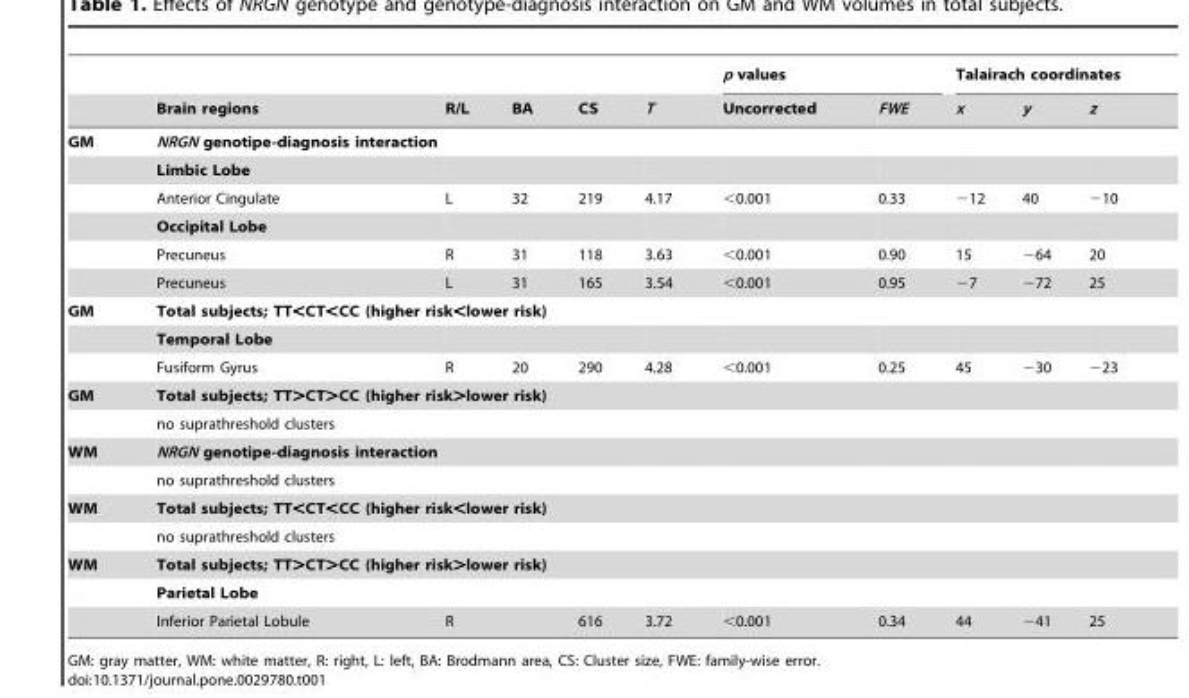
<table><thead><tr><td rowspan="2"></td><td rowspan="2">Brain regions</td><td rowspan="2">R/L</td><td rowspan="2">BA</td><td rowspan="2">CS</td><td rowspan="2">T</td><td colspan="2">p values</td><td colspan="3">Talairach coordinates</td></tr><tr><td>Uncorrected</td><td>FWE</td><td>x</td><td>y</td><td>z</td></tr></thead><tbody><tr><td rowspan="6">GM</td><td colspan="10">NRGN genotipe-diagnosis interaction</td></tr><tr><td>Limbic Lobe</td><td></td><td></td><td></td><td></td><td></td><td></td><td></td><td></td><td></td></tr><tr><td>Anterior Cingulate</td><td>L</td><td>32</td><td>219</td><td>4.17</td><td>&lt;0.001</td><td>0.33</td><td>−12</td><td>40</td><td>−10</td></tr><tr><td>Occipital Lobe</td><td></td><td></td><td></td><td></td><td></td><td></td><td></td><td></td><td></td></tr><tr><td>Precuneus</td><td>R</td><td>31</td><td>118</td><td>3.63</td><td>&lt;0.001</td><td>0.90</td><td>15</td><td>−64</td><td>20</td></tr><tr><td>Precuneus</td><td>L</td><td>31</td><td>165</td><td>3.54</td><td>&lt;0.001</td><td>0.95</td><td>−7</td><td>−72</td><td>25</td></tr><tr><td rowspan="3">GM</td><td colspan="10">Total subjects; TT&lt;CT&lt;CC (higher risk&lt;lower risk)</td></tr><tr><td>Temporal Lobe</td><td></td><td></td><td></td><td></td><td></td><td></td><td></td><td></td><td></td></tr><tr><td>Fusiform Gyrus</td><td>R</td><td>20</td><td>290</td><td>4.28</td><td>&lt;0.001</td><td>0.25</td><td>45</td><td>−30</td><td>−23</td></tr><tr><td rowspan="2">GM</td><td colspan="10">Total subjects; TT&gt;CT&gt;CC (higher risk&gt;lower risk)</td></tr><tr><td>no suprathreshold clusters</td><td></td><td></td><td></td><td></td><td></td><td></td><td></td><td></td><td></td></tr><tr><td rowspan="2">WM</td><td colspan="10">NRGN genotipe-diagnosis interaction</td></tr><tr><td>no suprathreshold clusters</td><td></td><td></td><td></td><td></td><td></td><td></td><td></td><td></td><td></td></tr><tr><td rowspan="2">WM</td><td colspan="10">Total subjects; TT&lt;CT&lt;CC (higher risk&lt;lower risk)</td></tr><tr><td>no suprathreshold clusters</td><td></td><td></td><td></td><td></td><td></td><td></td><td></td><td></td><td></td></tr><tr><td rowspan="3">WM</td><td colspan="10">Total subjects; TT&gt;CT&gt;CC (higher risk&gt;lower risk)</td></tr><tr><td>Parietal Lobe</td><td></td><td></td><td></td><td></td><td></td><td></td><td></td><td></td><td></td></tr><tr><td>Inferior Parietal Lobule</td><td>R</td><td></td><td>616</td><td>3.72</td><td>&lt;0.001</td><td>0.34</td><td>44</td><td>−41</td><td>25</td></tr></tbody></table>